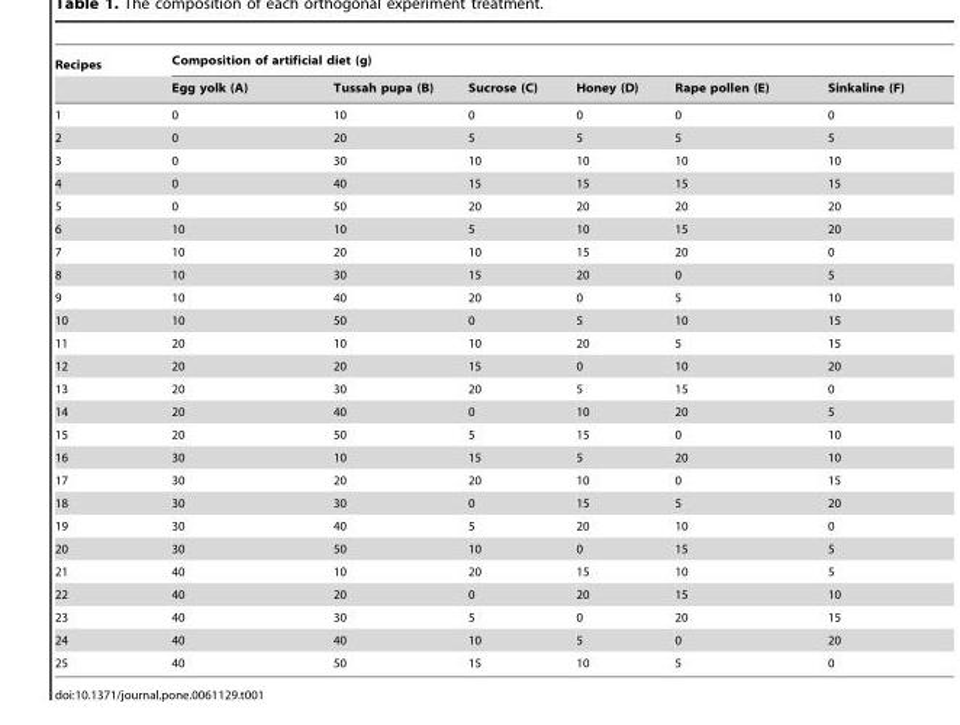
<table><thead><tr><td rowspan="2">Recipes</td><td colspan="6">Composition of artificial diet (g)</td></tr><tr><td>Egg yolk (A)</td><td>Tussah pupa (B)</td><td>Sucrose (C)</td><td>Honey (D)</td><td>Rape pollen (E)</td><td>Sinkaline (F)</td></tr></thead><tbody><tr><td>1</td><td>0</td><td>10</td><td>0</td><td>0</td><td>0</td><td>0</td></tr><tr><td>2</td><td>0</td><td>20</td><td>5</td><td>5</td><td>5</td><td>5</td></tr><tr><td>3</td><td>0</td><td>30</td><td>10</td><td>10</td><td>10</td><td>10</td></tr><tr><td>4</td><td>0</td><td>40</td><td>15</td><td>15</td><td>15</td><td>15</td></tr><tr><td>5</td><td>0</td><td>50</td><td>20</td><td>20</td><td>20</td><td>20</td></tr><tr><td>6</td><td>10</td><td>10</td><td>5</td><td>10</td><td>15</td><td>20</td></tr><tr><td>7</td><td>10</td><td>20</td><td>10</td><td>15</td><td>20</td><td>0</td></tr><tr><td>8</td><td>10</td><td>30</td><td>15</td><td>20</td><td>0</td><td>5</td></tr><tr><td>9</td><td>10</td><td>40</td><td>20</td><td>0</td><td>5</td><td>10</td></tr><tr><td>10</td><td>10</td><td>50</td><td>0</td><td>5</td><td>10</td><td>15</td></tr><tr><td>11</td><td>20</td><td>10</td><td>10</td><td>20</td><td>5</td><td>15</td></tr><tr><td>12</td><td>20</td><td>20</td><td>15</td><td>0</td><td>10</td><td>20</td></tr><tr><td>13</td><td>20</td><td>30</td><td>20</td><td>5</td><td>15</td><td>0</td></tr><tr><td>14</td><td>20</td><td>40</td><td>0</td><td>10</td><td>20</td><td>5</td></tr><tr><td>15</td><td>20</td><td>50</td><td>5</td><td>15</td><td>0</td><td>10</td></tr><tr><td>16</td><td>30</td><td>10</td><td>15</td><td>5</td><td>20</td><td>10</td></tr><tr><td>17</td><td>30</td><td>20</td><td>20</td><td>10</td><td>0</td><td>15</td></tr><tr><td>18</td><td>30</td><td>30</td><td>0</td><td>15</td><td>5</td><td>20</td></tr><tr><td>19</td><td>30</td><td>40</td><td>5</td><td>20</td><td>10</td><td>0</td></tr><tr><td>20</td><td>30</td><td>50</td><td>10</td><td>0</td><td>15</td><td>5</td></tr><tr><td>21</td><td>40</td><td>10</td><td>20</td><td>15</td><td>10</td><td>5</td></tr><tr><td>22</td><td>40</td><td>20</td><td>0</td><td>20</td><td>15</td><td>10</td></tr><tr><td>23</td><td>40</td><td>30</td><td>5</td><td>0</td><td>20</td><td>15</td></tr><tr><td>24</td><td>40</td><td>40</td><td>10</td><td>5</td><td>0</td><td>20</td></tr><tr><td>25</td><td>40</td><td>50</td><td>15</td><td>10</td><td>5</td><td>0</td></tr></tbody></table>